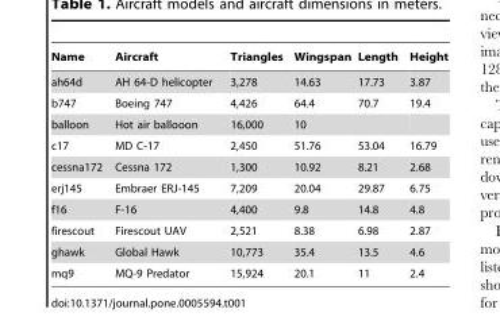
<table><thead><tr><td>Name</td><td>Aircraft</td><td>Triangles</td><td>Wingspan</td><td>Length</td><td>Height</td></tr></thead><tbody><tr><td>ah64d</td><td>AH 64-D helicopter</td><td>3,278</td><td>14.63</td><td>17.73</td><td>3.87</td></tr><tr><td>b747</td><td>Boeing 747</td><td>4,426</td><td>64.4</td><td>70.7</td><td>19.4</td></tr><tr><td>balloon</td><td>Hot air ballooon</td><td>16,000</td><td>10</td><td></td><td></td></tr><tr><td>c17</td><td>MD C-17</td><td>2,450</td><td>51.76</td><td>53.04</td><td>16.79</td></tr><tr><td>cessna172</td><td>Cessna 172</td><td>1,300</td><td>10.92</td><td>8.21</td><td>2.68</td></tr><tr><td>erj145</td><td>Embraer ERJ-145</td><td>7,209</td><td>20.04</td><td>29.87</td><td>6.75</td></tr><tr><td>f16</td><td>F-16</td><td>4,400</td><td>9.8</td><td>14.8</td><td>4.8</td></tr><tr><td>firescout</td><td>Firescout UAV</td><td>2,521</td><td>8.38</td><td>6.98</td><td>2.87</td></tr><tr><td>ghawk</td><td>Global Hawk</td><td>10,773</td><td>35.4</td><td>13.5</td><td>4.6</td></tr><tr><td>mq9</td><td>MQ-9 Predator</td><td>15,924</td><td>20.1</td><td>11</td><td>2.4</td></tr></tbody></table>